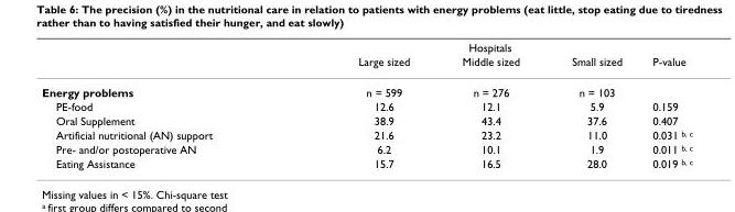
<table><thead><tr><td rowspan="2"></td><td colspan="3">Hospitals</td><td rowspan="2">P-value</td></tr><tr><td>Large sized</td><td>Middle sized</td><td>Small sized</td></tr></thead><tbody><tr><td>Energy problems</td><td>n = 599</td><td>n = 276</td><td>n = 103</td><td></td></tr><tr><td>PE-food</td><td>12.6</td><td>12.1</td><td>5.9</td><td>0.159</td></tr><tr><td>Oral Supplement</td><td>38.9</td><td>43.4</td><td>37.6</td><td>0.407</td></tr><tr><td>Artificial nutritional (AN) support</td><td>21.6</td><td>23.2</td><td>11.0</td><td>0.031 <sup>b, c</sup></td></tr><tr><td>Pre- and/or postoperative AN</td><td>6.2</td><td>10.1</td><td>1.9</td><td>0.011 <sup>b, c</sup></td></tr><tr><td>Eating Assistance</td><td>15.7</td><td>16.5</td><td>28.0</td><td>0.019 <sup>b, c</sup></td></tr></tbody></table>